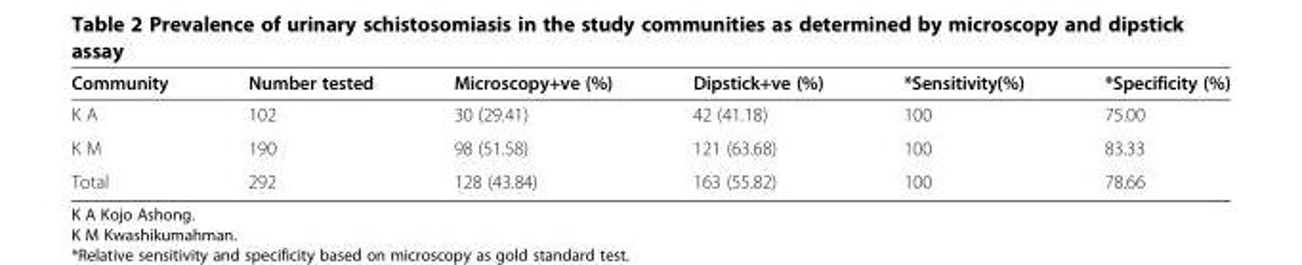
<table><thead><tr><td>Community</td><td>Number tested</td><td>Microscopy+ve (%)</td><td>Dipstick+ve (%)</td><td>*Sensitivity(%)</td><td>*Specificity (%)</td></tr></thead><tbody><tr><td>K A</td><td>102</td><td>30 (29.41)</td><td>42 (41.18)</td><td>100</td><td>75.00</td></tr><tr><td>K M</td><td>190</td><td>98 (51.58)</td><td>121 (63.68)</td><td>100</td><td>83.33</td></tr><tr><td>Total</td><td>292</td><td>128 (43.84)</td><td>163 (55.82)</td><td>100</td><td>78.66</td></tr></tbody></table>